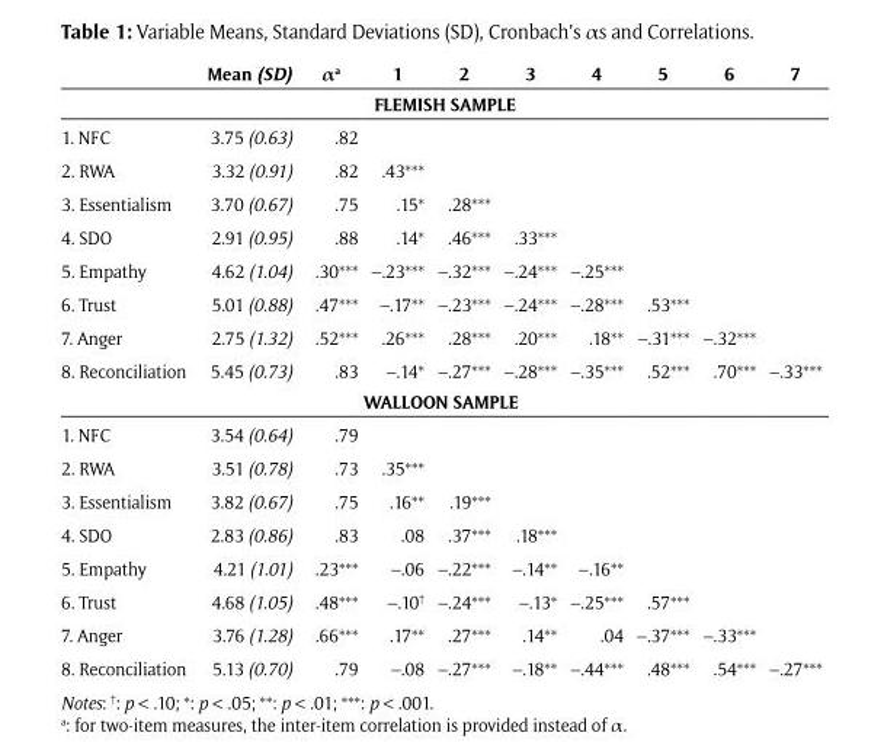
<table><thead><tr><td></td><td>Mean (SD)</td><td>α<sup>a</sup></td><td>1</td><td>2</td><td>3</td><td>4</td><td>5</td><td>6</td><td>7</td></tr><tr><td colspan="10">FLEMISH SAMPLE</td></tr></thead><tbody><tr><td>1. NFC</td><td>3.75 (0.63)</td><td>.82</td><td></td><td></td><td></td><td></td><td></td><td></td><td></td></tr><tr><td>2. RWA</td><td>3.32 (0.91)</td><td>.82</td><td>.43***</td><td></td><td></td><td></td><td></td><td></td><td></td></tr><tr><td>3. Essentialism</td><td>3.70 (0.67)</td><td>.75</td><td>.15*</td><td>.28***</td><td></td><td></td><td></td><td></td><td></td></tr><tr><td>4. SDO</td><td>2.91 (0.95)</td><td>.88</td><td>.14*</td><td>.46***</td><td>.33***</td><td></td><td></td><td></td><td></td></tr><tr><td>5. Empathy</td><td>4.62 (1.04)</td><td>.30***</td><td>–.23***</td><td>–.32***</td><td>–.24***</td><td>–.25***</td><td></td><td></td><td></td></tr><tr><td>6. Trust</td><td>5.01 (0.88)</td><td>.47***</td><td>–.17**</td><td>–.23***</td><td>–.24***</td><td>–.28***</td><td>.53***</td><td></td><td></td></tr><tr><td>7. Anger</td><td>2.75 (1.32)</td><td>.52***</td><td>.26***</td><td>.28***</td><td>.20***</td><td>.18**</td><td>–.31***</td><td>–.32***</td><td></td></tr><tr><td>8. Reconciliation</td><td>5.45 (0.73)</td><td>.83</td><td>–.14*</td><td>–.27***</td><td>–.28***</td><td>–.35***</td><td>.52***</td><td>.70***</td><td>–.33***</td></tr><tr><td colspan="10">WALLOON SAMPLE</td></tr><tr><td>1. NFC</td><td>3.54 (0.64)</td><td>.79</td><td></td><td></td><td></td><td></td><td></td><td></td><td></td></tr><tr><td>2. RWA</td><td>3.51 (0.78)</td><td>.73</td><td>.35***</td><td></td><td></td><td></td><td></td><td></td><td></td></tr><tr><td>3. Essentialism</td><td>3.82 (0.67)</td><td>.75</td><td>.16**</td><td>.19***</td><td></td><td></td><td></td><td></td><td></td></tr><tr><td>4. SDO</td><td>2.83 (0.86)</td><td>.83</td><td>.08</td><td>.37***</td><td>.18***</td><td></td><td></td><td></td><td></td></tr><tr><td>5. Empathy</td><td>4.21 (1.01)</td><td>.23***</td><td>–.06</td><td>–.22***</td><td>–.14**</td><td>–.16**</td><td></td><td></td><td></td></tr><tr><td>6. Trust</td><td>4.68 (1.05)</td><td>.48***</td><td>–.10<sup>†</sup></td><td>–.24***</td><td>–.13*</td><td>–.25***</td><td>.57***</td><td></td><td></td></tr><tr><td>7. Anger</td><td>3.76 (1.28)</td><td>.66***</td><td>.17**</td><td>.27***</td><td>.14**</td><td>.04</td><td>–.37***</td><td>–.33***</td><td></td></tr><tr><td>8. Reconciliation</td><td>5.13 (0.70)</td><td>.79</td><td>–.08</td><td>–.27***</td><td>–.18**</td><td>–.44***</td><td>.48***</td><td>.54***</td><td>–.27***</td></tr></tbody></table>